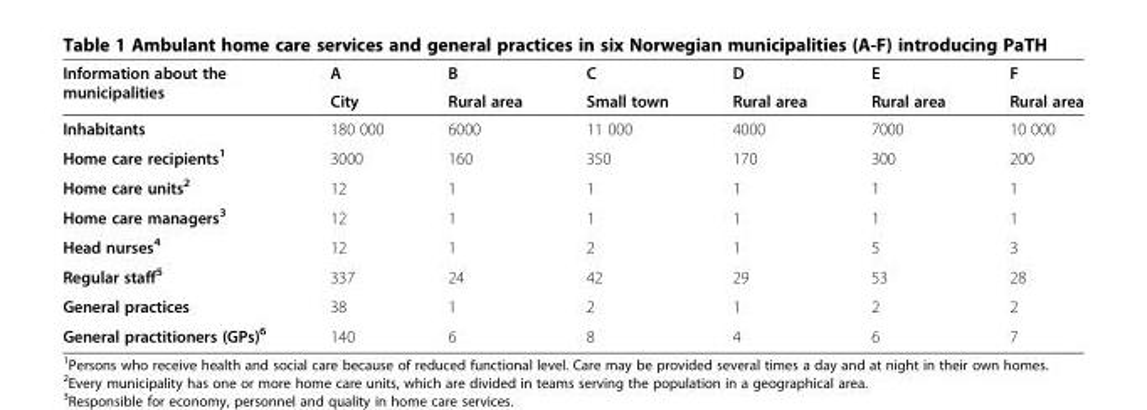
<table><thead><tr><td rowspan="2">Information about the municipalities</td><td rowspan="2">A City</td><td rowspan="2">B Rural area</td><td rowspan="2">C Small town</td><td rowspan="2">D Rural area</td><td rowspan="2">E Rural area</td><td rowspan="2">F Rural area</td></tr><tr></tr></thead><tbody><tr><td>Inhabitants</td><td>180 000</td><td>6000</td><td>11 000</td><td>4000</td><td>7000</td><td>10 000</td></tr><tr><td>Home care recipients<sup>1</sup></td><td>3000</td><td>160</td><td>350</td><td>170</td><td>300</td><td>200</td></tr><tr><td>Home care units<sup>2</sup></td><td>12</td><td>1</td><td>1</td><td>1</td><td>1</td><td>1</td></tr><tr><td>Home care managers<sup>3</sup></td><td>12</td><td>1</td><td>1</td><td>1</td><td>1</td><td>1</td></tr><tr><td>Head nurses<sup>4</sup></td><td>12</td><td>1</td><td>2</td><td>1</td><td>5</td><td>3</td></tr><tr><td>Regular staff<sup>5</sup></td><td>337</td><td>24</td><td>42</td><td>29</td><td>53</td><td>28</td></tr><tr><td>General practices</td><td>38</td><td>1</td><td>2</td><td>1</td><td>2</td><td>2</td></tr><tr><td>General practitioners (GPs)<sup>6</sup></td><td>140</td><td>6</td><td>8</td><td>4</td><td>6</td><td>7</td></tr></tbody></table>